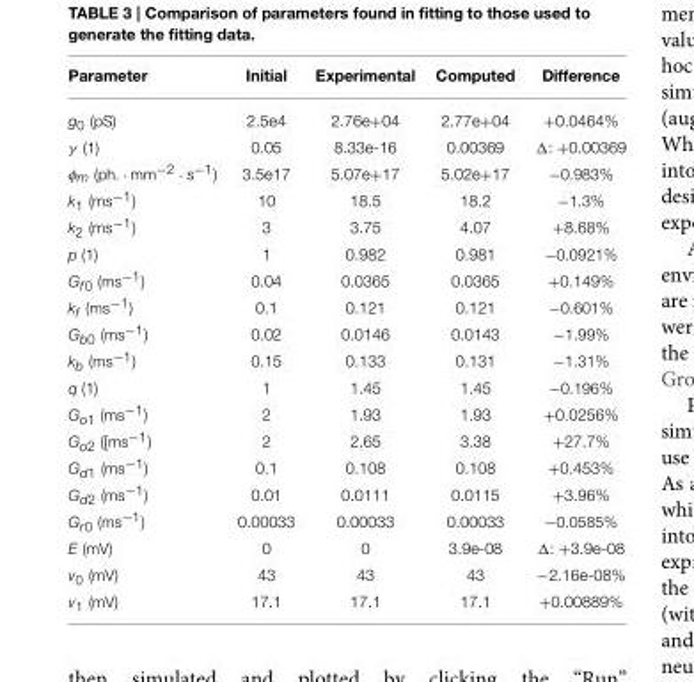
<table><thead><tr><td>Parameter</td><td>Initial</td><td>Experimental</td><td>Computed</td><td>Difference</td></tr></thead><tbody><tr><td>g<sub>0</sub> (pS)</td><td>2.5e4</td><td>2.76e+04</td><td>2.77e+04</td><td>+0.0464%</td></tr><tr><td>γ (1)</td><td>0.05</td><td>8.33e-16</td><td>0.00369</td><td>Δ: +0.00369</td></tr><tr><td>φ<sub>m</sub> (ph. · mm<sup>−2</sup> · s<sup>−1</sup>)</td><td>3.5e17</td><td>5.07e+17</td><td>5.02e+17</td><td>−0.983%</td></tr><tr><td>k<sub>1</sub> (ms<sup>−1</sup>)</td><td>10</td><td>18.5</td><td>18.2</td><td>−1.3%</td></tr><tr><td>k<sub>2</sub> (ms<sup>−1</sup>)</td><td>3</td><td>3.75</td><td>4.07</td><td>+8.68%</td></tr><tr><td>p (1)</td><td>1</td><td>0.982</td><td>0.981</td><td>−0.0921%</td></tr><tr><td>G<sub>f0</sub> (ms<sup>−1</sup>)</td><td>0.04</td><td>0.0365</td><td>0.0365</td><td>+0.149%</td></tr><tr><td>k<sub>f</sub> (ms<sup>−1</sup>)</td><td>0.1</td><td>0.121</td><td>0.121</td><td>−0.601%</td></tr><tr><td>G<sub>b0</sub> (ms<sup>−1</sup>)</td><td>0.02</td><td>0.0146</td><td>0.0143</td><td>−1.99%</td></tr><tr><td>k<sub>b</sub> (ms<sup>−1</sup>)</td><td>0.15</td><td>0.133</td><td>0.131</td><td>−1.31%</td></tr><tr><td>q (1)</td><td>1</td><td>1.45</td><td>1.45</td><td>−0.196%</td></tr><tr><td>G<sub>o1</sub> (ms<sup>−1</sup>)</td><td>2</td><td>1.93</td><td>1.93</td><td>+0.0256%</td></tr><tr><td>G<sub>o2</sub> ([ms<sup>−1</sup>)</td><td>2</td><td>2.65</td><td>3.38</td><td>+27.7%</td></tr><tr><td>G<sub>d1</sub> (ms<sup>−1</sup>)</td><td>0.1</td><td>0.108</td><td>0.108</td><td>+0.453%</td></tr><tr><td>G<sub>d2</sub> (ms<sup>−1</sup>)</td><td>0.01</td><td>0.0111</td><td>0.0115</td><td>+3.96%</td></tr><tr><td>G<sub>r0</sub> (ms<sup>−1</sup>)</td><td>0.00033</td><td>0.00033</td><td>0.00033</td><td>−0.0585%</td></tr><tr><td>E (mV)</td><td>0</td><td>0</td><td>3.9e-08</td><td>Δ: +3.9e-08</td></tr><tr><td>v<sub>0</sub> (mV)</td><td>43</td><td>43</td><td>43</td><td>−2.16e-08%</td></tr><tr><td>v<sub>1</sub> (mV)</td><td>17.1</td><td>17.1</td><td>17.1</td><td>+0.00889%</td></tr></tbody></table>